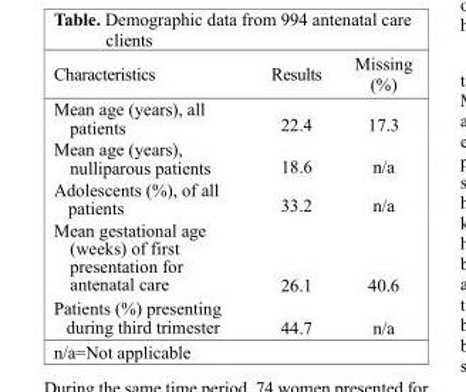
<table><thead><tr><td>Characteristics</td><td>Results</td><td>Missing (%)</td></tr></thead><tbody><tr><td>Mean age (years), all patients</td><td>22.4</td><td>17.3</td></tr><tr><td>Mean age (years), nulliparous patients</td><td>18.6</td><td>n/a</td></tr><tr><td>Adolescents (%), of all patients</td><td>33.2</td><td>n/a</td></tr><tr><td>Mean gestational age (weeks) of first presentation for antenatal care</td><td>26.1</td><td>40.6</td></tr><tr><td>Patients (%) presenting during third trimester</td><td>44.7</td><td>n/a</td></tr></tbody></table>